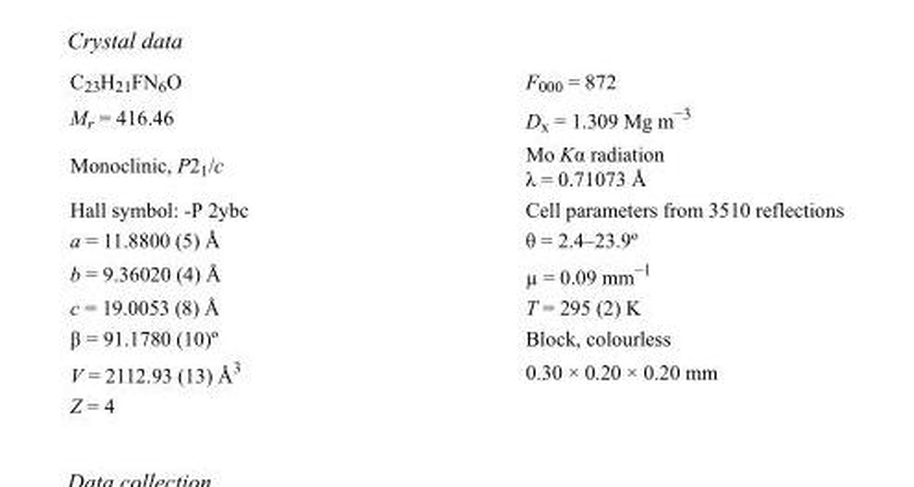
<table><tbody><tr><td>C<sub>23</sub>H<sub>21</sub>FN<sub>6</sub>O</td><td>F<sub>000</sub> = 872</td></tr><tr><td>M<sub>r</sub> = 416.46</td><td>D<sub>x</sub> = 1.309 Mg m<sup>−3</sup></td></tr><tr><td>Monoclinic, P2<sub>1</sub>/c</td><td>Mo Kα radiation λ = 0.71073 Å</td></tr><tr><td>Hall symbol: -P 2ybc</td><td>Cell parameters from 3510 reflections</td></tr><tr><td>a = 11.8800 (5) Å</td><td>θ = 2.4–23.9º</td></tr><tr><td>b = 9.36020 (4) Å</td><td>µ = 0.09 mm<sup>−1</sup></td></tr><tr><td>c = 19.0053 (8) Å</td><td>T = 295 (2) K</td></tr><tr><td>β = 91.1780 (10)º</td><td>Block, colourless</td></tr><tr><td>V = 2112.93 (13) Å<sup>3</sup></td><td>0.30 × 0.20 × 0.20 mm</td></tr><tr><td>Z = 4</td><td></td></tr></tbody></table>